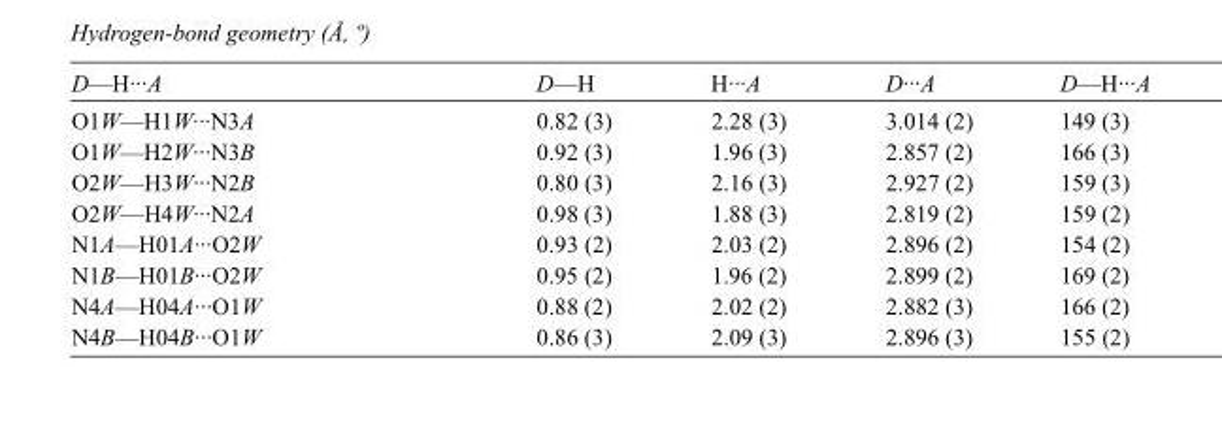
<table><tbody><tr><td>D—H···A</td><td>D—H</td><td>H···A</td><td>D···A</td><td>D—H···A</td></tr><tr><td>O1W—H1W···N3A</td><td>0.82 (3)</td><td>2.28 (3)</td><td>3.014 (2)</td><td>149 (3)</td></tr><tr><td>O1W—H2W···N3B</td><td>0.92 (3)</td><td>1.96 (3)</td><td>2.857 (2)</td><td>166 (3)</td></tr><tr><td>O2W—H3W···N2B</td><td>0.80 (3)</td><td>2.16 (3)</td><td>2.927 (2)</td><td>159 (3)</td></tr><tr><td>O2W—H4W···N2A</td><td>0.98 (3)</td><td>1.88 (3)</td><td>2.819 (2)</td><td>159 (2)</td></tr><tr><td>N1A—H01A···O2W</td><td>0.93 (2)</td><td>2.03 (2)</td><td>2.896 (2)</td><td>154 (2)</td></tr><tr><td>N1B—H01B···O2W</td><td>0.95 (2)</td><td>1.96 (2)</td><td>2.899 (2)</td><td>169 (2)</td></tr><tr><td>N4A—H04A···O1W</td><td>0.88 (2)</td><td>2.02 (2)</td><td>2.882 (3)</td><td>166 (2)</td></tr><tr><td>N4B—H04B···O1W</td><td>0.86 (3)</td><td>2.09 (3)</td><td>2.896 (3)</td><td>155 (2)</td></tr></tbody></table>